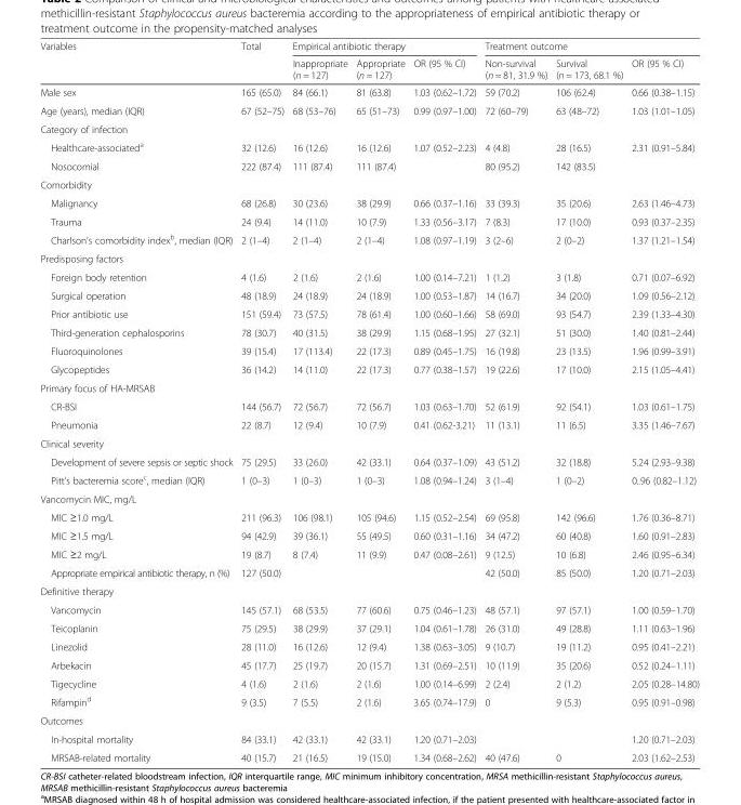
<table><thead><tr><td rowspan="2">Variables</td><td rowspan="2">Total</td><td colspan="3">Empirical antibiotic therapy</td><td colspan="3">Treatment outcome</td></tr><tr><td>Inappropriate (n = 127)</td><td>Appropriate (n = 127)</td><td>OR (95 % CI)</td><td>Non-survival (n = 81, 31.9 %)</td><td>Survival (n = 173, 68.1 %)</td><td>OR (95 % CI)</td></tr></thead><tbody><tr><td>Male sex</td><td>165 (65.0)</td><td>84 (66.1)</td><td>81 (63.8)</td><td>1.03 (0.62–1.72)</td><td>59 (70.2)</td><td>106 (62.4)</td><td>0.66 (0.38–1.15)</td></tr><tr><td>Age (years), median (IQR)</td><td>67 (52–75)</td><td>68 (53–76)</td><td>65 (51–73)</td><td>0.99 (0.97–1.00)</td><td>72 (60–79)</td><td>63 (48–72)</td><td>1.03 (1.01–1.05)</td></tr><tr><td colspan="8">Category of infection</td></tr><tr><td>Healthcare-associated<sup>a</sup></td><td>32 (12.6)</td><td>16 (12.6)</td><td>16 (12.6)</td><td rowspan="2">1.07 (0.52–2.23)</td><td>4 (4.8)</td><td>28 (16.5)</td><td rowspan="2">2.31 (0.91–5.84)</td></tr><tr><td>Nosocomial</td><td>222 (87.4)</td><td>111 (87.4)</td><td>111 (87.4)</td><td>80 (95.2)</td><td>142 (83.5)</td></tr><tr><td colspan="8">Comorbidity</td></tr><tr><td>Malignancy</td><td>68 (26.8)</td><td>30 (23.6)</td><td>38 (29.9)</td><td>0.66 (0.37–1.16)</td><td>33 (39.3)</td><td>35 (20.6)</td><td>2.63 (1.46–4.73)</td></tr><tr><td>Trauma</td><td>24 (9.4)</td><td>14 (11.0)</td><td>10 (7.9)</td><td>1.33 (0.56–3.17)</td><td>7 (8.3)</td><td>17 (10.0)</td><td>0.93 (0.37–2.35)</td></tr><tr><td>Charlson’s comorbidity index<sup>b</sup>, median (IQR)</td><td>2 (1–4)</td><td>2 (1–4)</td><td>2 (1–4)</td><td>1.08 (0.97–1.19)</td><td>3 (2–6)</td><td>2 (0–2)</td><td>1.37 (1.21–1.54)</td></tr><tr><td colspan="8">Predisposing factors</td></tr><tr><td>Foreign body retention</td><td>4 (1.6)</td><td>2 (1.6)</td><td>2 (1.6)</td><td>1.00 (0.14–7.21)</td><td>1 (1.2)</td><td>3 (1.8)</td><td>0.71 (0.07–6.92)</td></tr><tr><td>Surgical operation</td><td>48 (18.9)</td><td>24 (18.9)</td><td>24 (18.9)</td><td>1.00 (0.53–1.87)</td><td>14 (16.7)</td><td>34 (20.0)</td><td>1.09 (0.56–2.12)</td></tr><tr><td>Prior antibiotic use</td><td>151 (59.4)</td><td>73 (57.5)</td><td>78 (61.4)</td><td>1.00 (0.60–1.66)</td><td>58 (69.0)</td><td>93 (54.7)</td><td>2.39 (1.33–4.30)</td></tr><tr><td>Third-generation cephalosporins</td><td>78 (30.7)</td><td>40 (31.5)</td><td>38 (29.9)</td><td>1.15 (0.68–1.95)</td><td>27 (32.1)</td><td>51 (30.0)</td><td>1.40 (0.81–2.44)</td></tr><tr><td>Fluoroquinolones</td><td>39 (15.4)</td><td>17 (113.4)</td><td>22 (17.3)</td><td>0.89 (0.45–1.75)</td><td>16 (19.8)</td><td>23 (13.5)</td><td>1.96 (0.99–3.91)</td></tr><tr><td>Glycopeptides</td><td>36 (14.2)</td><td>14 (11.0)</td><td>22 (17.3)</td><td>0.77 (0.38–1.57)</td><td>19 (22.6)</td><td>17 (10.0)</td><td>2.15 (1.05–4.41)</td></tr><tr><td colspan="8">Primary focus of HA-MRSAB</td></tr><tr><td>CR-BSI</td><td>144 (56.7)</td><td>72 (56.7)</td><td>72 (56.7)</td><td>1.03 (0.63–1.70)</td><td>52 (61.9)</td><td>92 (54.1)</td><td>1.03 (0.61–1.75)</td></tr><tr><td>Pneumonia</td><td>22 (8.7)</td><td>12 (9.4)</td><td>10 (7.9)</td><td>0.41 (0.62-3.21)</td><td>11 (13.1)</td><td>11 (6.5)</td><td>3.35 (1.46–7.67)</td></tr><tr><td colspan="8">Clinical severity</td></tr><tr><td>Development of severe sepsis or septic shock</td><td>75 (29.5)</td><td>33 (26.0)</td><td>42 (33.1)</td><td>0.64 (0.37–1.09)</td><td>43 (51.2)</td><td>32 (18.8)</td><td>5.24 (2.93–9.38)</td></tr><tr><td>Pitt’s bacteremia score<sup>c</sup>, median (IQR)</td><td>1 (0–3)</td><td>1 (0–3)</td><td>1 (0–3)</td><td>1.08 (0.94–1.24)</td><td>3 (1–4)</td><td>1 (0–2)</td><td>0..96 (0.82–1.12)</td></tr><tr><td colspan="8">Vancomycin MIC, mg/L</td></tr><tr><td>MIC ≥1.0 mg/L</td><td>211 (96.3)</td><td>106 (98.1)</td><td>105 (94.6)</td><td>1.15 (0.52–2.54)</td><td>69 (95.8)</td><td>142 (96.6)</td><td>1.76 (0.36–8.71)</td></tr><tr><td>MIC ≥1.5 mg/L</td><td>94 (42.9)</td><td>39 (36.1)</td><td>55 (49.5)</td><td>0.60 (0.31–1.16)</td><td>34 (47.2)</td><td>60 (40.8)</td><td>1.60 (0.91–2.83)</td></tr><tr><td>MIC ≥2 mg/L</td><td>19 (8.7)</td><td>8 (7.4)</td><td>11 (9.9)</td><td>0.47 (0.08–2.61)</td><td>9 (12.5)</td><td>10 (6.8)</td><td>2.46 (0.95–6.34)</td></tr><tr><td>Appropriate empirical antibiotic therapy, n (%)</td><td>127 (50.0)</td><td></td><td></td><td></td><td>42 (50.0)</td><td>85 (50.0)</td><td>1.20 (0.71–2.03)</td></tr><tr><td colspan="8">Definitive therapy</td></tr><tr><td>Vancomycin</td><td>145 (57.1)</td><td>68 (53.5)</td><td>77 (60.6)</td><td>0.75 (0.46–1.23)</td><td>48 (57.1)</td><td>97 (57.1)</td><td>1.00 (0.59–1.70)</td></tr><tr><td>Teicoplanin</td><td>75 (29.5)</td><td>38 (29.9)</td><td>37 (29.1)</td><td>1.04 (0.61–1.78)</td><td>26 (31.0)</td><td>49 (28.8)</td><td>1.11 (0.63–1.96)</td></tr><tr><td>Linezolid</td><td>28 (11.0)</td><td>16 (12.6)</td><td>12 (9.4)</td><td>1.38 (0.63–3.05)</td><td>9 (10.7)</td><td>19 (11.2)</td><td>0.95 (0.41–2.21)</td></tr><tr><td>Arbekacin</td><td>45 (17.7)</td><td>25 (19.7)</td><td>20 (15.7)</td><td>1.31 (0.69–2.51)</td><td>10 (11.9)</td><td>35 (20.6)</td><td>0.52 (0.24–1.11)</td></tr><tr><td>Tigecycline</td><td>4 (1.6)</td><td>2 (1.6)</td><td>2 (1.6)</td><td>1.00 (0.14–6.99)</td><td>2 (2.4)</td><td>2 (1.2)</td><td>2.05 (0.28–14.80)</td></tr><tr><td>Rifampin<sup>d</sup></td><td>9 (3.5)</td><td>7 (5.5)</td><td>2 (1.6)</td><td>3.65 (0.74–17.9)</td><td>0</td><td>9 (5.3)</td><td>0.95 (0.91–0.98)</td></tr><tr><td colspan="8">Outcomes</td></tr><tr><td>In-hospital mortality</td><td>84 (33.1)</td><td>42 (33.1)</td><td>42 (33.1)</td><td>1.20 (0.71–2.03)</td><td></td><td></td><td>1.20 (0.71–2.03)</td></tr><tr><td>MRSAB-related mortality</td><td>40 (15.7)</td><td>21 (16.5)</td><td>19 (15.0)</td><td>1.34 (0.68–2.62)</td><td>40 (47.6)</td><td>0</td><td>2.03 (1.62–2.53)</td></tr></tbody></table>